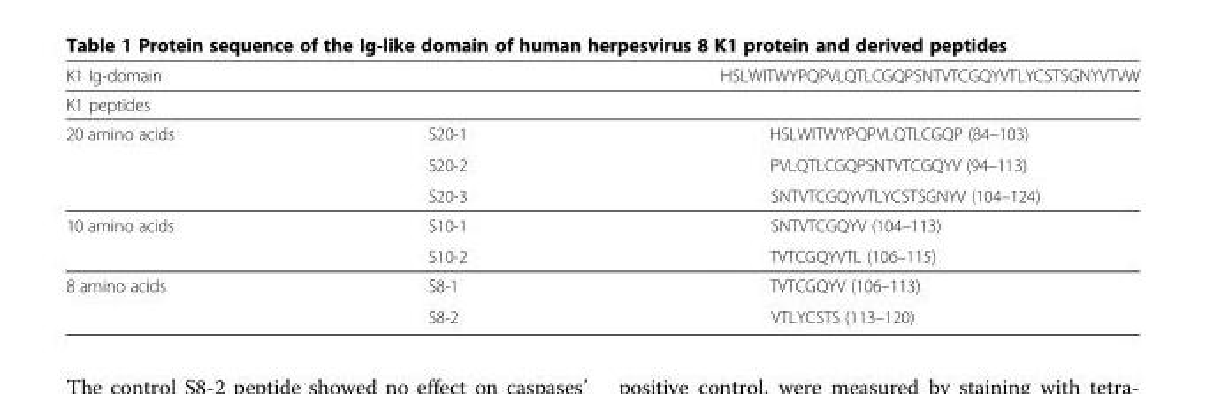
<table><tbody><tr><td>K1 Ig-domain</td><td></td><td>HSLWITWYPQPVLQTLCGQPSNTVTCGQYVTLYCSTSGNYVTVW</td></tr><tr><td colspan="3">K1 peptides</td></tr><tr><td rowspan="3">20 amino acids</td><td>S20-1</td><td>HSLWITWYPQPVLQTLCGQP (84–103)</td></tr><tr><td>S20-2</td><td>PVLQTLCGQPSNTVTCGQYV (94–113)</td></tr><tr><td>S20-3</td><td>SNTVTCGQYVTLYCSTSGNYV (104–124)</td></tr><tr><td rowspan="2">10 amino acids</td><td>S10-1</td><td>SNTVTCGQYV (104–113)</td></tr><tr><td>S10-2</td><td>TVTCGQYVTL (106–115)</td></tr><tr><td rowspan="2">8 amino acids</td><td>S8-1</td><td>TVTCGQYV (106–113)</td></tr><tr><td>S8-2</td><td>VTLYCSTS (113–120)</td></tr></tbody></table>